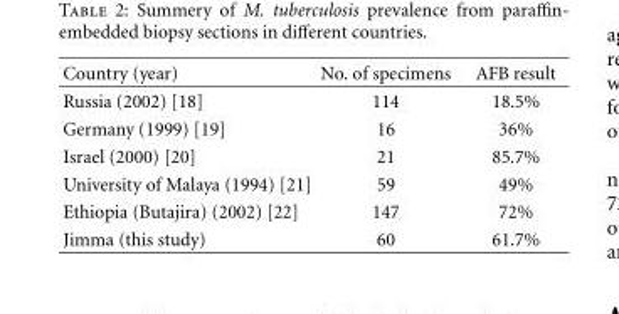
<table><thead><tr><td>Country (year)</td><td>No. of specimens</td><td>AFB result</td></tr></thead><tbody><tr><td>Russia (2002) [18]</td><td>114</td><td>18.5%</td></tr><tr><td>Germany (1999) [19]</td><td>16</td><td>36%</td></tr><tr><td>Israel (2000) [20]</td><td>21</td><td>85.7%</td></tr><tr><td>University of Malaya (1994) [21]</td><td>59</td><td>49%</td></tr><tr><td>Ethiopia (Butajira) (2002) [22]</td><td>147</td><td>72%</td></tr><tr><td>Jimma (this study)</td><td>60</td><td>61.7%</td></tr></tbody></table>